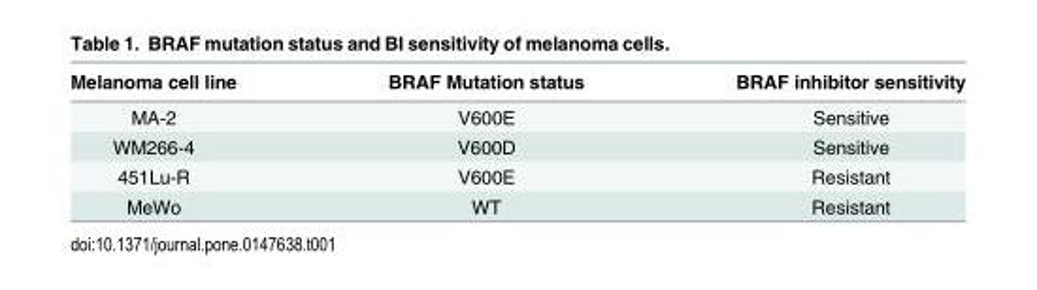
<table><thead><tr><td>Melanoma cell line</td><td>BRAF Mutation status</td><td>BRAF inhibitor sensitivity</td></tr></thead><tbody><tr><td>MA-2</td><td>V600E</td><td>Sensitive</td></tr><tr><td>WM266-4</td><td>V600D</td><td>Sensitive</td></tr><tr><td>451Lu-R</td><td>V600E</td><td>Resistant</td></tr><tr><td>MeWo</td><td>WT</td><td>Resistant</td></tr></tbody></table>